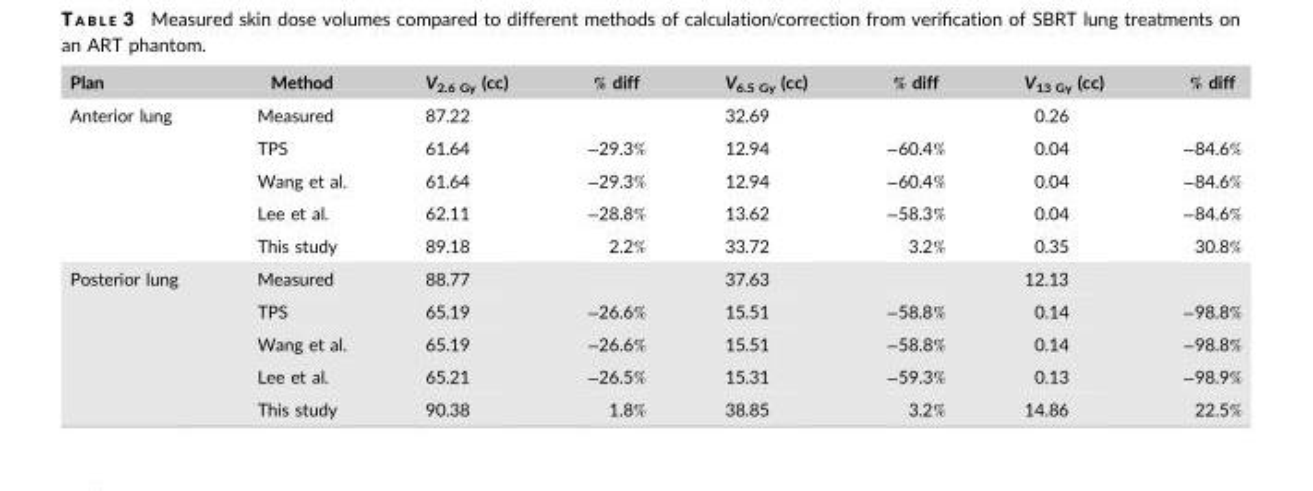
<table><thead><tr><td>Plan</td><td>Method</td><td>V<sub>2.6 Gy</sub> (cc)</td><td>% diff</td><td>V<sub>6.5 Gy</sub> (cc)</td><td>% diff</td><td>V<sub>13 Gy</sub> (cc)</td><td>% diff</td></tr></thead><tbody><tr><td rowspan="5">Anterior lung</td><td>Measured</td><td>87.22</td><td></td><td>32.69</td><td></td><td>0.26</td><td></td></tr><tr><td>TPS</td><td>61.64</td><td>−29.3%</td><td>12.94</td><td>−60.4%</td><td>0.04</td><td>−84.6%</td></tr><tr><td>Wang et al.</td><td>61.64</td><td>−29.3%</td><td>12.94</td><td>−60.4%</td><td>0.04</td><td>−84.6%</td></tr><tr><td>Lee et al.</td><td>62.11</td><td>−28.8%</td><td>13.62</td><td>−58.3%</td><td>0.04</td><td>−84.6%</td></tr><tr><td>This study</td><td>89.18</td><td>2.2%</td><td>33.72</td><td>3.2%</td><td>0.35</td><td>30.8%</td></tr><tr><td rowspan="5">Posterior lung</td><td>Measured</td><td>88.77</td><td></td><td>37.63</td><td></td><td>12.13</td><td></td></tr><tr><td>TPS</td><td>65.19</td><td>−26.6%</td><td>15.51</td><td>−58.8%</td><td>0.14</td><td>−98.8%</td></tr><tr><td>Wang et al.</td><td>65.19</td><td>−26.6%</td><td>15.51</td><td>−58.8%</td><td>0.14</td><td>−98.8%</td></tr><tr><td>Lee et al.</td><td>65.21</td><td>−26.5%</td><td>15.31</td><td>−59.3%</td><td>0.13</td><td>−98.9%</td></tr><tr><td>This study</td><td>90.38</td><td>1.8%</td><td>38.85</td><td>3.2%</td><td>14.86</td><td>22.5%</td></tr></tbody></table>